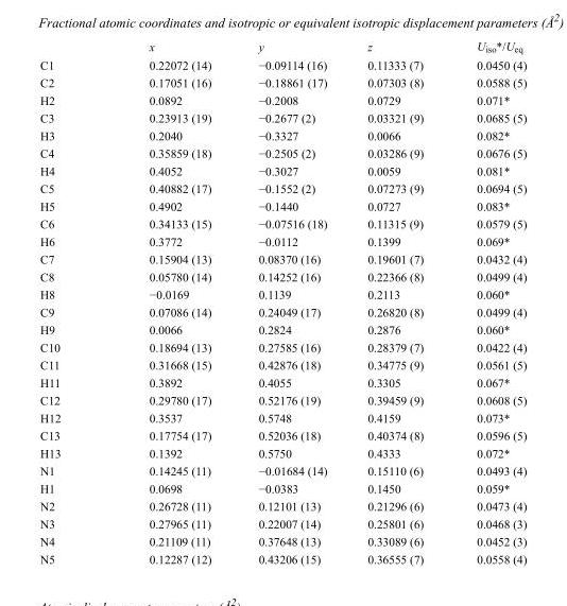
<table><thead><tr><td></td><td>x</td><td>y</td><td>z</td><td>U<sub>iso</sub>*/U<sub>eq</sub></td></tr></thead><tbody><tr><td>C1</td><td>0.22072 (14)</td><td>−0.09114 (16)</td><td>0.11333 (7)</td><td>0.0450 (4)</td></tr><tr><td>C2</td><td>0.17051 (16)</td><td>−0.18861 (17)</td><td>0.07303 (8)</td><td>0.0588 (5)</td></tr><tr><td>H2</td><td>0.0892</td><td>−0.2008</td><td>0.0729</td><td>0.071*</td></tr><tr><td>C3</td><td>0.23913 (19)</td><td>−0.2677 (2)</td><td>0.03321 (9)</td><td>0.0685 (5)</td></tr><tr><td>H3</td><td>0.2040</td><td>−0.3327</td><td>0.0066</td><td>0.082*</td></tr><tr><td>C4</td><td>0.35859 (18)</td><td>−0.2505 (2)</td><td>0.03286 (9)</td><td>0.0676 (5)</td></tr><tr><td>H4</td><td>0.4052</td><td>−0.3027</td><td>0.0059</td><td>0.081*</td></tr><tr><td>C5</td><td>0.40882 (17)</td><td>−0.1552 (2)</td><td>0.07273 (9)</td><td>0.0694 (5)</td></tr><tr><td>H5</td><td>0.4902</td><td>−0.1440</td><td>0.0727</td><td>0.083*</td></tr><tr><td>C6</td><td>0.34133 (15)</td><td>−0.07516 (18)</td><td>0.11315 (9)</td><td>0.0579 (5)</td></tr><tr><td>H6</td><td>0.3772</td><td>−0.0112</td><td>0.1399</td><td>0.069*</td></tr><tr><td>C7</td><td>0.15904 (13)</td><td>0.08370 (16)</td><td>0.19601 (7)</td><td>0.0432 (4)</td></tr><tr><td>C8</td><td>0.05780 (14)</td><td>0.14252 (16)</td><td>0.22366 (8)</td><td>0.0499 (4)</td></tr><tr><td>H8</td><td>−0.0169</td><td>0.1139</td><td>0.2113</td><td>0.060*</td></tr><tr><td>C9</td><td>0.07086 (14)</td><td>0.24049 (17)</td><td>0.26820 (8)</td><td>0.0499 (4)</td></tr><tr><td>H9</td><td>0.0066</td><td>0.2824</td><td>0.2876</td><td>0.060*</td></tr><tr><td>C10</td><td>0.18694 (13)</td><td>0.27585 (16)</td><td>0.28379 (7)</td><td>0.0422 (4)</td></tr><tr><td>C11</td><td>0.31668 (15)</td><td>0.42876 (18)</td><td>0.34775 (9)</td><td>0.0561 (5)</td></tr><tr><td>H11</td><td>0.3892</td><td>0.4055</td><td>0.3305</td><td>0.067*</td></tr><tr><td>C12</td><td>0.29780 (17)</td><td>0.52176 (19)</td><td>0.39459 (9)</td><td>0.0608 (5)</td></tr><tr><td>H12</td><td>0.3537</td><td>0.5748</td><td>0.4159</td><td>0.073*</td></tr><tr><td>C13</td><td>0.17754 (17)</td><td>0.52036 (18)</td><td>0.40374 (8)</td><td>0.0596 (5)</td></tr><tr><td>H13</td><td>0.1392</td><td>0.5750</td><td>0.4333</td><td>0.072*</td></tr><tr><td>N1</td><td>0.14245 (11)</td><td>−0.01684 (14)</td><td>0.15110 (6)</td><td>0.0493 (4)</td></tr><tr><td>H1</td><td>0.0698</td><td>−0.0383</td><td>0.1450</td><td>0.059*</td></tr><tr><td>N2</td><td>0.26728 (11)</td><td>0.12101 (13)</td><td>0.21296 (6)</td><td>0.0473 (4)</td></tr><tr><td>N3</td><td>0.27965 (11)</td><td>0.22007 (14)</td><td>0.25801 (6)</td><td>0.0468 (3)</td></tr><tr><td>N4</td><td>0.21109 (11)</td><td>0.37648 (13)</td><td>0.33089 (6)</td><td>0.0452 (3)</td></tr><tr><td>N5</td><td>0.12287 (12)</td><td>0.43206 (15)</td><td>0.36555 (7)</td><td>0.0558 (4)</td></tr></tbody></table>